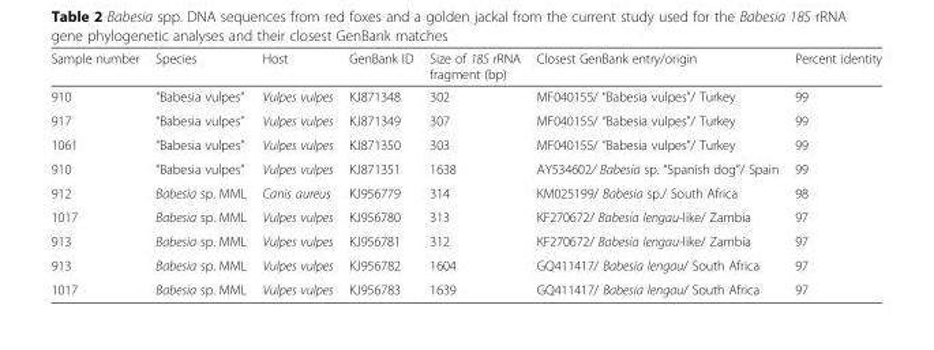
<table><thead><tr><td>Sample number</td><td>Species</td><td>Host</td><td>GenBank ID</td><td>Size of 18S rRNA fragment (bp)</td><td>Closest GenBank entry/origin</td><td>Percent identity</td></tr></thead><tbody><tr><td>910</td><td>“Babesia vulpes”</td><td>Vulpes vulpes</td><td>KJ871348</td><td>302</td><td>MF040155/ “Babesia vulpes”/ Turkey</td><td>99</td></tr><tr><td>917</td><td>“Babesia vulpes”</td><td>Vulpes vulpes</td><td>KJ871349</td><td>307</td><td>MF040155/ “Babesia vulpes”/ Turkey</td><td>99</td></tr><tr><td>1061</td><td>“Babesia vulpes”</td><td>Vulpes vulpes</td><td>KJ871350</td><td>303</td><td>MF040155/ “Babesia vulpes”/ Turkey</td><td>99</td></tr><tr><td>910</td><td>“Babesia vulpes”</td><td>Vulpes vulpes</td><td>KJ871351</td><td>1638</td><td>AY534602/ Babesia sp. “Spanish dog”/ Spain</td><td>99</td></tr><tr><td>912</td><td>Babesia sp. MML</td><td>Canis aureus</td><td>KJ956779</td><td>314</td><td>KM025199/ Babesia sp./ South Africa</td><td>98</td></tr><tr><td>1017</td><td>Babesia sp. MML</td><td>Vulpes vulpes</td><td>KJ956780</td><td>313</td><td>KF270672/ Babesia lengau-like/ Zambia</td><td>97</td></tr><tr><td>913</td><td>Babesia sp. MML</td><td>Vulpes vulpes</td><td>KJ956781</td><td>312</td><td>KF270672/ Babesia lengau-like/ Zambia</td><td>97</td></tr><tr><td>913</td><td>Babesia sp. MML</td><td>Vulpes vulpes</td><td>KJ956782</td><td>1604</td><td>GQ411417/ Babesia lengau/ South Africa</td><td>97</td></tr><tr><td>1017</td><td>Babesia sp. MML</td><td>Vulpes vulpes</td><td>KJ956783</td><td>1639</td><td>GQ411417/ Babesia lengau/ South Africa</td><td>97</td></tr></tbody></table>